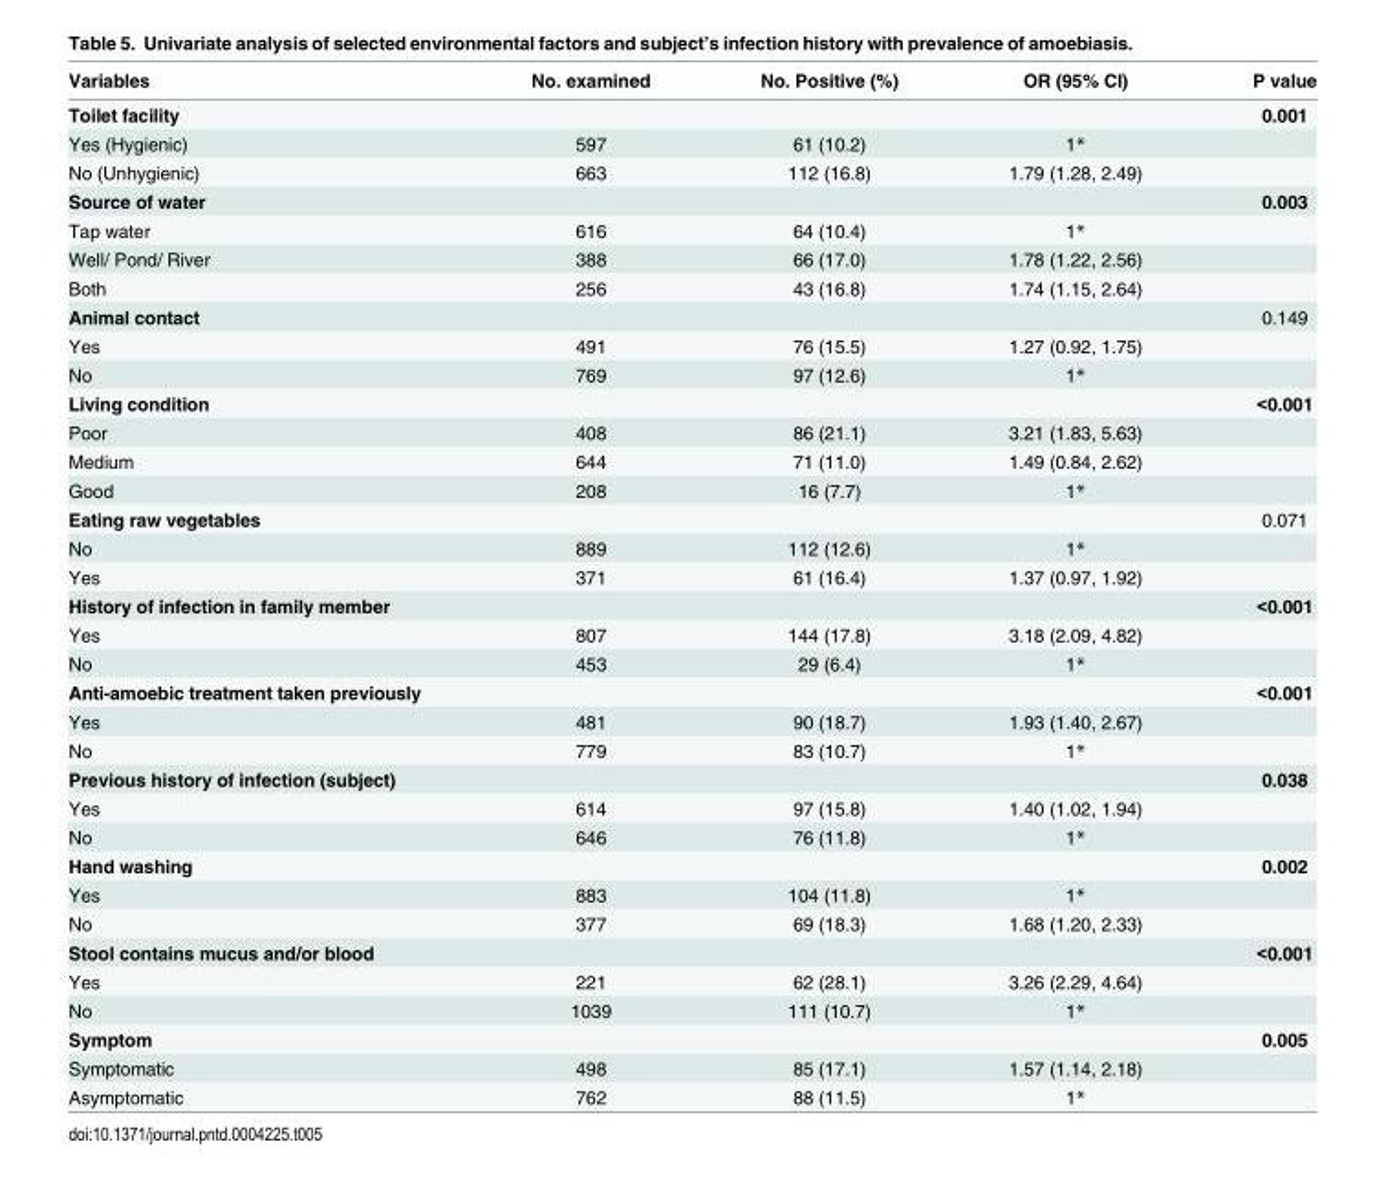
<table><thead><tr><td>Variables</td><td>No. examined</td><td>No. Positive (%)</td><td>OR (95% CI)</td><td>P value</td></tr></thead><tbody><tr><td>Toilet facility</td><td></td><td></td><td></td><td>0.001</td></tr><tr><td>Yes (Hygienic)</td><td>597</td><td>61 (10.2)</td><td>1*</td><td></td></tr><tr><td>No (Unhygienic)</td><td>663</td><td>112 (16.8)</td><td>1.79 (1.28, 2.49)</td><td></td></tr><tr><td>Source of water</td><td></td><td></td><td></td><td>0.003</td></tr><tr><td>Tap water</td><td>616</td><td>64 (10.4)</td><td>1*</td><td></td></tr><tr><td>Well/ Pond/ River</td><td>388</td><td>66 (17.0)</td><td>1.78 (1.22, 2.56)</td><td></td></tr><tr><td>Both</td><td>256</td><td>43 (16.8)</td><td>1.74 (1.15, 2.64)</td><td></td></tr><tr><td>Animal contact</td><td></td><td></td><td></td><td>0.149</td></tr><tr><td>Yes</td><td>491</td><td>76 (15.5)</td><td>1.27 (0.92, 1.75)</td><td></td></tr><tr><td>No</td><td>769</td><td>97 (12.6)</td><td>1*</td><td></td></tr><tr><td>Living condition</td><td></td><td></td><td></td><td>&lt;0.001</td></tr><tr><td>Poor</td><td>408</td><td>86 (21.1)</td><td>3.21 (1.83, 5.63)</td><td></td></tr><tr><td>Medium</td><td>644</td><td>71 (11.0)</td><td>1.49 (0.84, 2.62)</td><td></td></tr><tr><td>Good</td><td>208</td><td>16 (7.7)</td><td>1*</td><td></td></tr><tr><td>Eating raw vegetables</td><td></td><td></td><td></td><td>0.071</td></tr><tr><td>No</td><td>889</td><td>112 (12.6)</td><td>1*</td><td></td></tr><tr><td>Yes</td><td>371</td><td>61 (16.4)</td><td>1.37 (0.97, 1.92)</td><td></td></tr><tr><td>History of infection in family member</td><td></td><td></td><td></td><td>&lt;0.001</td></tr><tr><td>Yes</td><td>807</td><td>144 (17.8)</td><td>3.18 (2.09, 4.82)</td><td></td></tr><tr><td>No</td><td>453</td><td>29 (6.4)</td><td>1*</td><td></td></tr><tr><td>Anti-amoebic treatment taken previously</td><td></td><td></td><td></td><td>&lt;0.001</td></tr><tr><td>Yes</td><td>481</td><td>90 (18.7)</td><td>1.93 (1.40, 2.67)</td><td></td></tr><tr><td>No</td><td>779</td><td>83 (10.7)</td><td>1*</td><td></td></tr><tr><td>Previous history of infection (subject)</td><td></td><td></td><td></td><td>0.038</td></tr><tr><td>Yes</td><td>614</td><td>97 (15.8)</td><td>1.40 (1.02, 1.94)</td><td></td></tr><tr><td>No</td><td>646</td><td>76 (11.8)</td><td>1*</td><td></td></tr><tr><td>Hand washing</td><td></td><td></td><td></td><td>0.002</td></tr><tr><td>Yes</td><td>883</td><td>104 (11.8)</td><td>1*</td><td></td></tr><tr><td>No</td><td>377</td><td>69 (18.3)</td><td>1.68 (1.20, 2.33)</td><td></td></tr><tr><td>Stool contains mucus and/or blood</td><td></td><td></td><td></td><td>&lt;0.001</td></tr><tr><td>Yes</td><td>221</td><td>62 (28.1)</td><td>3.26 (2.29, 4.64)</td><td></td></tr><tr><td>No</td><td>1039</td><td>111 (10.7)</td><td>1*</td><td></td></tr><tr><td>Symptom</td><td></td><td></td><td></td><td>0.005</td></tr><tr><td>Symptomatic</td><td>498</td><td>85 (17.1)</td><td>1.57 (1.14, 2.18)</td><td></td></tr><tr><td>Asymptomatic</td><td>762</td><td>88 (11.5)</td><td>1*</td><td></td></tr></tbody></table>